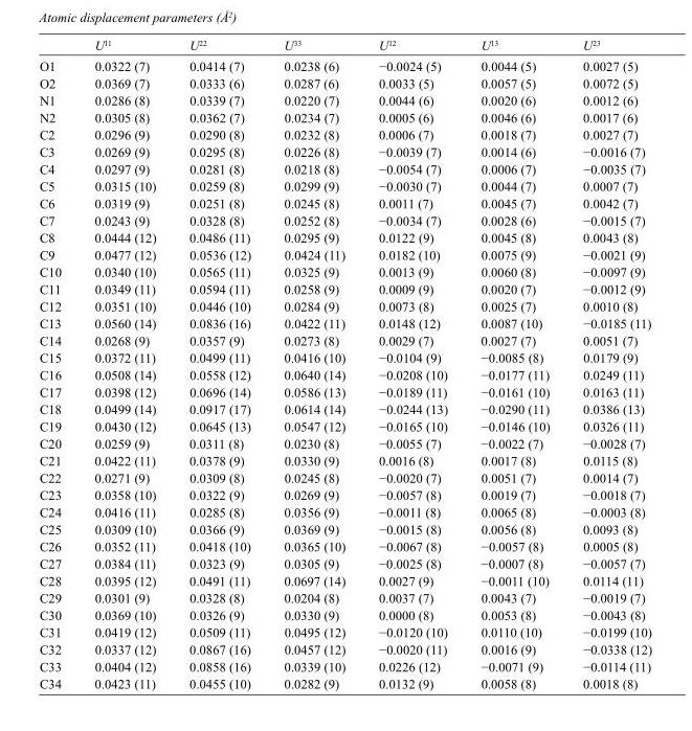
<table><thead><tr><td></td><td>U<sup>11</sup></td><td>U<sup>22</sup></td><td>U<sup>33</sup></td><td>U<sup>12</sup></td><td>U<sup>13</sup></td><td>U<sup>23</sup></td></tr></thead><tbody><tr><td>O1</td><td>0.0322 (7)</td><td>0.0414 (7)</td><td>0.0238 (6)</td><td>−0.0024 (5)</td><td>0.0044 (5)</td><td>0.0027 (5)</td></tr><tr><td>O2</td><td>0.0369 (7)</td><td>0.0333 (6)</td><td>0.0287 (6)</td><td>0.0033 (5)</td><td>0.0057 (5)</td><td>0.0072 (5)</td></tr><tr><td>N1</td><td>0.0286 (8)</td><td>0.0339 (7)</td><td>0.0220 (7)</td><td>0.0044 (6)</td><td>0.0020 (6)</td><td>0.0012 (6)</td></tr><tr><td>N2</td><td>0.0305 (8)</td><td>0.0362 (7)</td><td>0.0234 (7)</td><td>0.0005 (6)</td><td>0.0046 (6)</td><td>0.0017 (6)</td></tr><tr><td>C2</td><td>0.0296 (9)</td><td>0.0290 (8)</td><td>0.0232 (8)</td><td>0.0006 (7)</td><td>0.0018 (7)</td><td>0.0027 (7)</td></tr><tr><td>C3</td><td>0.0269 (9)</td><td>0.0295 (8)</td><td>0.0226 (8)</td><td>−0.0039 (7)</td><td>0.0014 (6)</td><td>−0.0016 (7)</td></tr><tr><td>C4</td><td>0.0297 (9)</td><td>0.0281 (8)</td><td>0.0218 (8)</td><td>−0.0054 (7)</td><td>0.0006 (7)</td><td>−0.0035 (7)</td></tr><tr><td>C5</td><td>0.0315 (10)</td><td>0.0259 (8)</td><td>0.0299 (9)</td><td>−0.0030 (7)</td><td>0.0044 (7)</td><td>0.0007 (7)</td></tr><tr><td>C6</td><td>0.0319 (9)</td><td>0.0251 (8)</td><td>0.0245 (8)</td><td>0.0011 (7)</td><td>0.0045 (7)</td><td>0.0042 (7)</td></tr><tr><td>C7</td><td>0.0243 (9)</td><td>0.0328 (8)</td><td>0.0252 (8)</td><td>−0.0034 (7)</td><td>0.0028 (6)</td><td>−0.0015 (7)</td></tr><tr><td>C8</td><td>0.0444 (12)</td><td>0.0486 (11)</td><td>0.0295 (9)</td><td>0.0122 (9)</td><td>0.0045 (8)</td><td>0.0043 (8)</td></tr><tr><td>C9</td><td>0.0477 (12)</td><td>0.0536 (12)</td><td>0.0424 (11)</td><td>0.0182 (10)</td><td>0.0075 (9)</td><td>−0.0021 (9)</td></tr><tr><td>C10</td><td>0.0340 (10)</td><td>0.0565 (11)</td><td>0.0325 (9)</td><td>0.0013 (9)</td><td>0.0060 (8)</td><td>−0.0097 (9)</td></tr><tr><td>C11</td><td>0.0349 (11)</td><td>0.0594 (11)</td><td>0.0258 (9)</td><td>0.0009 (9)</td><td>0.0020 (7)</td><td>−0.0012 (9)</td></tr><tr><td>C12</td><td>0.0351 (10)</td><td>0.0446 (10)</td><td>0.0284 (9)</td><td>0.0073 (8)</td><td>0.0025 (7)</td><td>0.0010 (8)</td></tr><tr><td>C13</td><td>0.0560 (14)</td><td>0.0836 (16)</td><td>0.0422 (11)</td><td>0.0148 (12)</td><td>0.0087 (10)</td><td>−0.0185 (11)</td></tr><tr><td>C14</td><td>0.0268 (9)</td><td>0.0357 (9)</td><td>0.0273 (8)</td><td>0.0029 (7)</td><td>0.0027 (7)</td><td>0.0051 (7)</td></tr><tr><td>C15</td><td>0.0372 (11)</td><td>0.0499 (11)</td><td>0.0416 (10)</td><td>−0.0104 (9)</td><td>−0.0085 (8)</td><td>0.0179 (9)</td></tr><tr><td>C16</td><td>0.0508 (14)</td><td>0.0558 (12)</td><td>0.0640 (14)</td><td>−0.0208 (10)</td><td>−0.0177 (11)</td><td>0.0249 (11)</td></tr><tr><td>C17</td><td>0.0398 (12)</td><td>0.0696 (14)</td><td>0.0586 (13)</td><td>−0.0189 (11)</td><td>−0.0161 (10)</td><td>0.0163 (11)</td></tr><tr><td>C18</td><td>0.0499 (14)</td><td>0.0917 (17)</td><td>0.0614 (14)</td><td>−0.0244 (13)</td><td>−0.0290 (11)</td><td>0.0386 (13)</td></tr><tr><td>C19</td><td>0.0430 (12)</td><td>0.0645 (13)</td><td>0.0547 (12)</td><td>−0.0165 (10)</td><td>−0.0146 (10)</td><td>0.0326 (11)</td></tr><tr><td>C20</td><td>0.0259 (9)</td><td>0.0311 (8)</td><td>0.0230 (8)</td><td>−0.0055 (7)</td><td>−0.0022 (7)</td><td>−0.0028 (7)</td></tr><tr><td>C21</td><td>0.0422 (11)</td><td>0.0378 (9)</td><td>0.0330 (9)</td><td>0.0016 (8)</td><td>0.0017 (8)</td><td>0.0115 (8)</td></tr><tr><td>C22</td><td>0.0271 (9)</td><td>0.0309 (8)</td><td>0.0245 (8)</td><td>−0.0020 (7)</td><td>0.0051 (7)</td><td>0.0014 (7)</td></tr><tr><td>C23</td><td>0.0358 (10)</td><td>0.0322 (9)</td><td>0.0269 (9)</td><td>−0.0057 (8)</td><td>0.0019 (7)</td><td>−0.0018 (7)</td></tr><tr><td>C24</td><td>0.0416 (11)</td><td>0.0285 (8)</td><td>0.0356 (9)</td><td>−0.0011 (8)</td><td>0.0065 (8)</td><td>−0.0003 (8)</td></tr><tr><td>C25</td><td>0.0309 (10)</td><td>0.0366 (9)</td><td>0.0369 (9)</td><td>−0.0015 (8)</td><td>0.0056 (8)</td><td>0.0093 (8)</td></tr><tr><td>C26</td><td>0.0352 (11)</td><td>0.0418 (10)</td><td>0.0365 (10)</td><td>−0.0067 (8)</td><td>−0.0057 (8)</td><td>0.0005 (8)</td></tr><tr><td>C27</td><td>0.0384 (11)</td><td>0.0323 (9)</td><td>0.0305 (9)</td><td>−0.0025 (8)</td><td>−0.0007 (8)</td><td>−0.0057 (7)</td></tr><tr><td>C28</td><td>0.0395 (12)</td><td>0.0491 (11)</td><td>0.0697 (14)</td><td>0.0027 (9)</td><td>−0.0011 (10)</td><td>0.0114 (11)</td></tr><tr><td>C29</td><td>0.0301 (9)</td><td>0.0328 (8)</td><td>0.0204 (8)</td><td>0.0037 (7)</td><td>0.0043 (7)</td><td>−0.0019 (7)</td></tr><tr><td>C30</td><td>0.0369 (10)</td><td>0.0326 (9)</td><td>0.0330 (9)</td><td>0.0000 (8)</td><td>0.0053 (8)</td><td>−0.0043 (8)</td></tr><tr><td>C31</td><td>0.0419 (12)</td><td>0.0509 (11)</td><td>0.0495 (12)</td><td>−0.0120 (10)</td><td>0.0110 (10)</td><td>−0.0199 (10)</td></tr><tr><td>C32</td><td>0.0337 (12)</td><td>0.0867 (16)</td><td>0.0457 (12)</td><td>−0.0020 (11)</td><td>0.0016 (9)</td><td>−0.0338 (12)</td></tr><tr><td>C33</td><td>0.0404 (12)</td><td>0.0858 (16)</td><td>0.0339 (10)</td><td>0.0226 (12)</td><td>−0.0071 (9)</td><td>−0.0114 (11)</td></tr><tr><td>C34</td><td>0.0423 (11)</td><td>0.0455 (10)</td><td>0.0282 (9)</td><td>0.0132 (9)</td><td>0.0058 (8)</td><td>0.0018 (8)</td></tr></tbody></table>